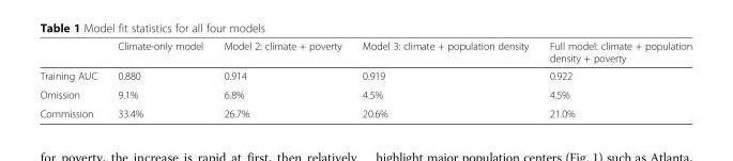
<table><thead><tr><td></td><td>Climate-only model</td><td>Model 2: climate + poverty</td><td>Model 3: climate + population density</td><td>Full model: climate + population density + poverty</td></tr></thead><tbody><tr><td>Training AUC</td><td>0.880</td><td>0.914</td><td>0.919</td><td>0.922</td></tr><tr><td>Omission</td><td>9.1%</td><td>6.8%</td><td>4.5%</td><td>4.5%</td></tr><tr><td>Commission</td><td>33.4%</td><td>26.7%</td><td>20.6%</td><td>21.0%</td></tr></tbody></table>